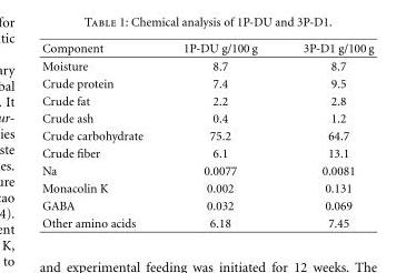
<table><thead><tr><td>Component</td><td>1P-DU g/100 g</td><td>3P-D1 g/100 g</td></tr></thead><tbody><tr><td>Moisture</td><td>8.7</td><td>8.7</td></tr><tr><td>Crude protein</td><td>7.4</td><td>9.5</td></tr><tr><td>Crude fat</td><td>2.2</td><td>2.8</td></tr><tr><td>Crude ash</td><td>0.4</td><td>1.2</td></tr><tr><td>Crude carbohydrate</td><td>75.2</td><td>64.7</td></tr><tr><td>Crude fiber</td><td>6.1</td><td>13.1</td></tr><tr><td>Na</td><td>0.0077</td><td>0.0081</td></tr><tr><td>Monacolin K</td><td>0.002</td><td>0.131</td></tr><tr><td>GABA</td><td>0.032</td><td>0.069</td></tr><tr><td>Other amino acids</td><td>6.18</td><td>7.45</td></tr></tbody></table>